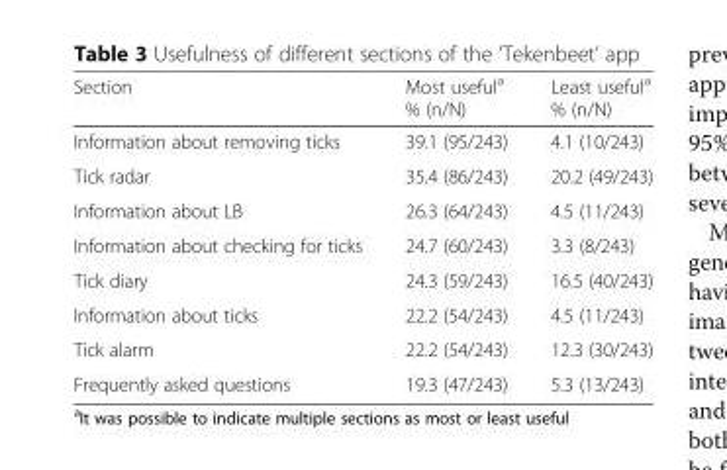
<table><thead><tr><td>Section</td><td>Most useful<sup>a</sup> % (n/N)</td><td>Least useful<sup>a</sup> % (n/N)</td></tr></thead><tbody><tr><td>Information about removing ticks</td><td>39.1 (95/243)</td><td>4.1 (10/243)</td></tr><tr><td>Tick radar</td><td>35.4 (86/243)</td><td>20.2 (49/243)</td></tr><tr><td>Information about LB</td><td>26.3 (64/243)</td><td>4.5 (11/243)</td></tr><tr><td>Information about checking for ticks</td><td>24.7 (60/243)</td><td>3.3 (8/243)</td></tr><tr><td>Tick diary</td><td>24.3 (59/243)</td><td>16.5 (40/243)</td></tr><tr><td>Information about ticks</td><td>22.2 (54/243)</td><td>4.5 (11/243)</td></tr><tr><td>Tick alarm</td><td>22.2 (54/243)</td><td>12.3 (30/243)</td></tr><tr><td>Frequently asked questions</td><td>19.3 (47/243)</td><td>5.3 (13/243)</td></tr></tbody></table>